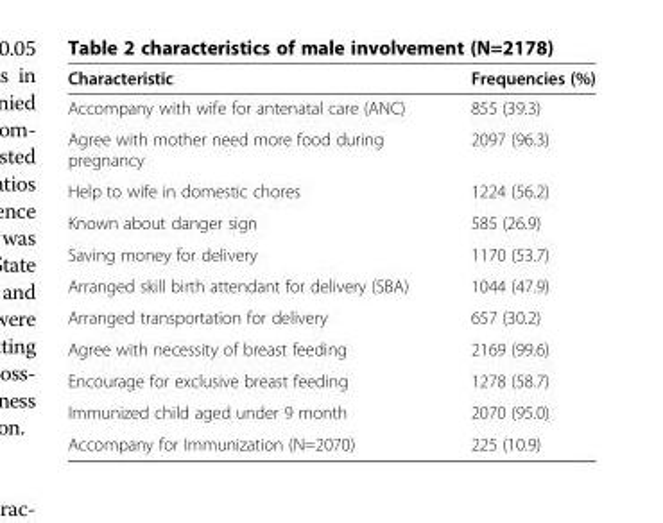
<table><thead><tr><td>Characteristic</td><td>Frequencies (%)</td></tr></thead><tbody><tr><td>Accompany with wife for antenatal care (ANC)</td><td>855 (39.3)</td></tr><tr><td>Agree with mother need more food during pregnancy</td><td>2097 (96.3)</td></tr><tr><td>Help to wife in domestic chores</td><td>1224 (56.2)</td></tr><tr><td>Known about danger sign</td><td>585 (26.9)</td></tr><tr><td>Saving money for delivery</td><td>1170 (53.7)</td></tr><tr><td>Arranged skill birth attendant for delivery (SBA)</td><td>1044 (47.9)</td></tr><tr><td>Arranged transportation for delivery</td><td>657 (30.2)</td></tr><tr><td>Agree with necessity of breast feeding</td><td>2169 (99.6)</td></tr><tr><td>Encourage for exclusive breast feeding</td><td>1278 (58.7)</td></tr><tr><td>Immunized child aged under 9 month</td><td>2070 (95.0)</td></tr><tr><td>Accompany for Immunization (N=2070)</td><td>225 (10.9)</td></tr></tbody></table>